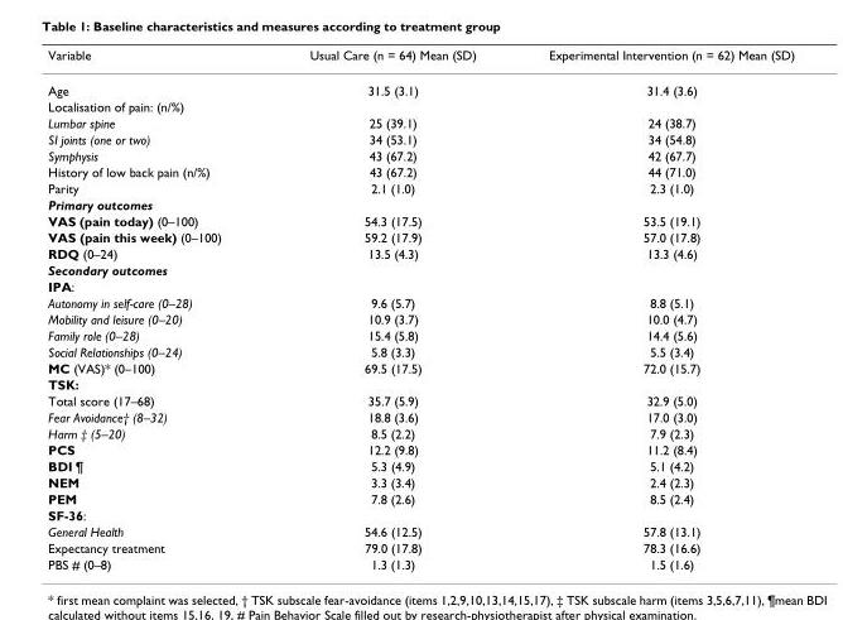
<table><thead><tr><td>Variable</td><td>Usual Care (n = 64) Mean (SD)</td><td>Experimental Intervention (n = 62) Mean (SD)</td></tr></thead><tbody><tr><td>Age</td><td>31.5 (3.1)</td><td>31.4 (3.6)</td></tr><tr><td colspan="3">Localisation of pain: (n/%)</td></tr><tr><td>Lumbar spine</td><td>25 (39.1)</td><td>24 (38.7)</td></tr><tr><td>SI joints (one or two)</td><td>34 (53.1)</td><td>34 (54.8)</td></tr><tr><td>Symphysis</td><td>43 (67.2)</td><td>42 (67.7)</td></tr><tr><td>History of low back pain (n/%)</td><td>43 (67.2)</td><td>44 (71.0)</td></tr><tr><td>Parity</td><td>2.1 (1.0)</td><td>2.3 (1.0)</td></tr><tr><td colspan="3">Primary outcomes</td></tr><tr><td>VAS (pain today) (0–100)</td><td>54.3 (17.5)</td><td>53.5 (19.1)</td></tr><tr><td>VAS (pain this week) (0–100)</td><td>59.2 (17.9)</td><td>57.0 (17.8)</td></tr><tr><td>RDQ (0–24)</td><td>13.5 (4.3)</td><td>13.3 (4.6)</td></tr><tr><td colspan="3">Secondary outcomes</td></tr><tr><td colspan="3">IPA:</td></tr><tr><td>Autonomy in self-care (0–28)</td><td>9.6 (5.7)</td><td>8.8 (5.1)</td></tr><tr><td>Mobility and leisure (0–20)</td><td>10.9 (3.7)</td><td>10.0 (4.7)</td></tr><tr><td>Family role (0–28)</td><td>15.4 (5.8)</td><td>14.4 (5.6)</td></tr><tr><td>Social Relationships (0–24)</td><td>5.8 (3.3)</td><td>5.5 (3.4)</td></tr><tr><td>MC (VAS)* (0–100)</td><td>69.5 (17.5)</td><td>72.0 (15.7)</td></tr><tr><td colspan="3">TSK:</td></tr><tr><td>Total score (17–68)</td><td>35.7 (5.9)</td><td>32.9 (5.0)</td></tr><tr><td>Fear Avoidance† (8–32)</td><td>18.8 (3.6)</td><td>17.0 (3.0)</td></tr><tr><td>Harm ‡ (5–20)</td><td>8.5 (2.2)</td><td>7.9 (2.3)</td></tr><tr><td>PCS</td><td>12.2 (9.8)</td><td>11.2 (8.4)</td></tr><tr><td>BDI ¶</td><td>5.3 (4.9)</td><td>5.1 (4.2)</td></tr><tr><td>NEM</td><td>3.3 (3.4)</td><td>2.4 (2.3)</td></tr><tr><td>PEM</td><td>7.8 (2.6)</td><td>8.5 (2.4)</td></tr><tr><td colspan="3">SF-36:</td></tr><tr><td>General Health</td><td>54.6 (12.5)</td><td>57.8 (13.1)</td></tr><tr><td>Expectancy treatment</td><td>79.0 (17.8)</td><td>78.3 (16.6)</td></tr><tr><td>PBS # (0–8)</td><td>1.3 (1.3)</td><td>1.5 (1.6)</td></tr></tbody></table>